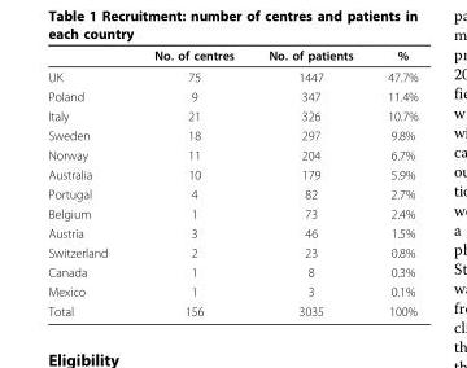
<table><thead><tr><td></td><td>No. of centres</td><td>No. of patients</td><td>%</td></tr></thead><tbody><tr><td>UK</td><td>75</td><td>1447</td><td>47.7%</td></tr><tr><td>Poland</td><td>9</td><td>347</td><td>11.4%</td></tr><tr><td>Italy</td><td>21</td><td>326</td><td>10.7%</td></tr><tr><td>Sweden</td><td>18</td><td>297</td><td>9.8%</td></tr><tr><td>Norway</td><td>11</td><td>204</td><td>6.7%</td></tr><tr><td>Australia</td><td>10</td><td>179</td><td>5.9%</td></tr><tr><td>Portugal</td><td>4</td><td>82</td><td>2.7%</td></tr><tr><td>Belgium</td><td>1</td><td>73</td><td>2.4%</td></tr><tr><td>Austria</td><td>3</td><td>46</td><td>1.5%</td></tr><tr><td>Switzerland</td><td>2</td><td>23</td><td>0.8%</td></tr><tr><td>Canada</td><td>1</td><td>8</td><td>0.3%</td></tr><tr><td>Mexico</td><td>1</td><td>3</td><td>0.1%</td></tr><tr><td>Total</td><td>156</td><td>3035</td><td>100%</td></tr></tbody></table>